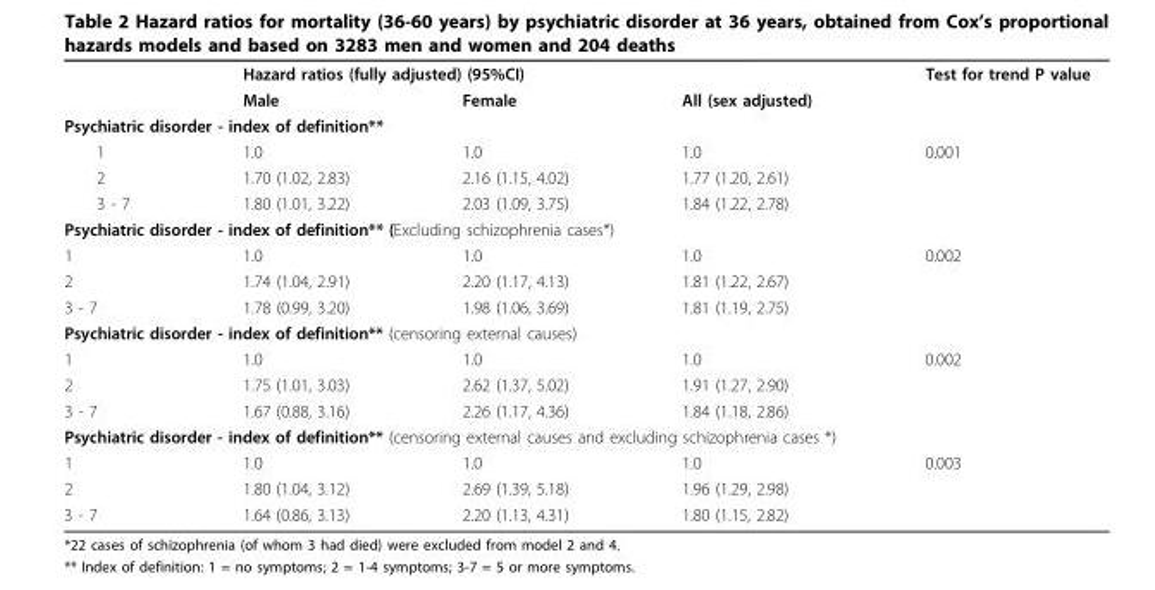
<table><thead><tr><td rowspan="2"></td><td colspan="3">Hazard ratios (fully adjusted) (95%CI)</td><td rowspan="2">Test for trend P value</td></tr><tr><td>Male</td><td>Female</td><td>All (sex adjusted)</td></tr></thead><tbody><tr><td colspan="5">Psychiatric disorder - index of definition**</td></tr><tr><td>1</td><td>1.0</td><td>1.0</td><td>1.0</td><td>0.001</td></tr><tr><td>2</td><td>1.70 (1.02, 2.83)</td><td>2.16 (1.15, 4.02)</td><td>1.77 (1.20, 2.61)</td><td></td></tr><tr><td>3 - 7</td><td>1.80 (1.01, 3.22)</td><td>2.03 (1.09, 3.75)</td><td>1.84 (1.22, 2.78)</td><td></td></tr><tr><td colspan="5">Psychiatric disorder - index of definition** (Excluding schizophrenia cases*)</td></tr><tr><td>1</td><td>1.0</td><td>1.0</td><td>1.0</td><td>0.002</td></tr><tr><td>2</td><td>1.74 (1.04, 2.91)</td><td>2.20 (1.17, 4.13)</td><td>1.81 (1.22, 2.67)</td><td></td></tr><tr><td>3 - 7</td><td>1.78 (0.99, 3.20)</td><td>1.98 (1.06, 3.69)</td><td>1.81 (1.19, 2.75)</td><td></td></tr><tr><td colspan="5">Psychiatric disorder - index of definition** (censoring external causes)</td></tr><tr><td>1</td><td>1.0</td><td>1.0</td><td>1.0</td><td>0.002</td></tr><tr><td>2</td><td>1.75 (1.01, 3.03)</td><td>2.62 (1.37, 5.02)</td><td>1.91 (1.27, 2.90)</td><td></td></tr><tr><td>3 - 7</td><td>1.67 (0.88, 3.16)</td><td>2.26 (1.17, 4.36)</td><td>1.84 (1.18, 2.86)</td><td></td></tr><tr><td colspan="5">Psychiatric disorder - index of definition** (censoring external causes and excluding schizophrenia cases *)</td></tr><tr><td>1</td><td>1.0</td><td>1.0</td><td>1.0</td><td>0.003</td></tr><tr><td>2</td><td>1.80 (1.04, 3.12)</td><td>2.69 (1.39, 5.18)</td><td>1.96 (1.29, 2.98)</td><td></td></tr><tr><td>3 - 7</td><td>1.64 (0.86, 3.13)</td><td>2.20 (1.13, 4.31)</td><td>1.80 (1.15, 2.82)</td><td></td></tr></tbody></table>